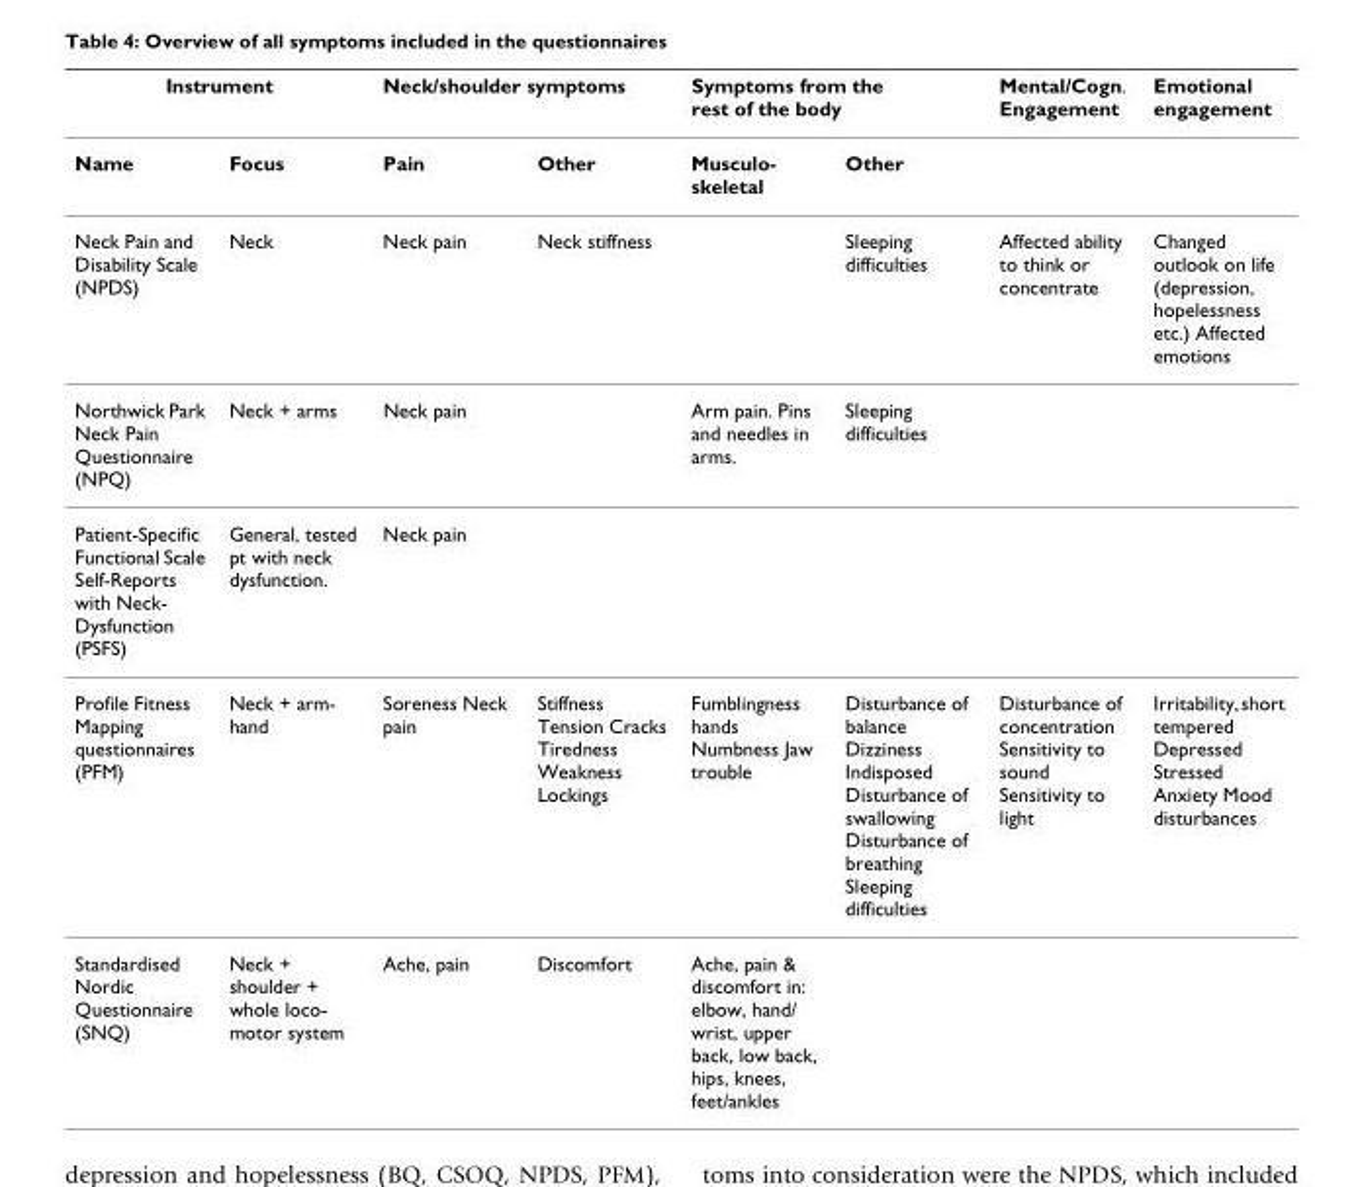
<table><thead><tr><td colspan="2">Instrument</td><td colspan="2">Neck/shoulder symptoms</td><td colspan="2">Symptoms from the rest of the body</td><td rowspan="2">Mental/Cogn. Engagement</td><td rowspan="2">Emotional engagement</td></tr><tr><td>Name</td><td>Focus</td><td>Pain</td><td>Other</td><td>Musculo- skeletal</td><td>Other</td></tr></thead><tbody><tr><td>Neck Pain and Disability Scale (NPDS)</td><td>Neck</td><td>Neck pain</td><td>Neck stiffness</td><td></td><td>Sleeping difficulties</td><td>Affected ability to think or concentrate</td><td>Changed outlook on life (depression, hopelessness etc.) Affected emotions</td></tr><tr><td>Northwick Park Neck Pain Questionnaire (NPQ)</td><td>Neck + arms</td><td>Neck pain</td><td></td><td>Arm pain. Pins and needles in arms.</td><td>Sleeping difficulties</td><td></td><td></td></tr><tr><td>Patient-Specific Functional Scale Self-Reports with Neck- Dysfunction (PSFS)</td><td>General, tested pt with neck dysfunction.</td><td>Neck pain</td><td></td><td></td><td></td><td></td><td></td></tr><tr><td>Profile Fitness Mapping questionnaires (PFM)</td><td>Neck + arm- hand</td><td>Soreness Neck pain</td><td>Stiffness Tension Cracks Tiredness Weakness Lockings</td><td>Fumblingness hands Numbness Jaw trouble</td><td>Disturbance of balance Dizziness Indisposed Disturbance of swallowing Disturbance of breathing Sleeping difficulties</td><td>Disturbance of concentration Sensitivity to sound Sensitivity to light</td><td>Irritability, short tempered Depressed Stressed Anxiety Mood disturbances</td></tr><tr><td>Standardised Nordic Questionnaire (SNQ)</td><td>Neck + shoulder + whole loco- motor system</td><td>Ache, pain</td><td>Discomfort</td><td>Ache, pain &amp; discomfort in: elbow, hand/ wrist, upper back, low back, hips, knees, feet/ankles</td><td></td><td></td><td></td></tr></tbody></table>